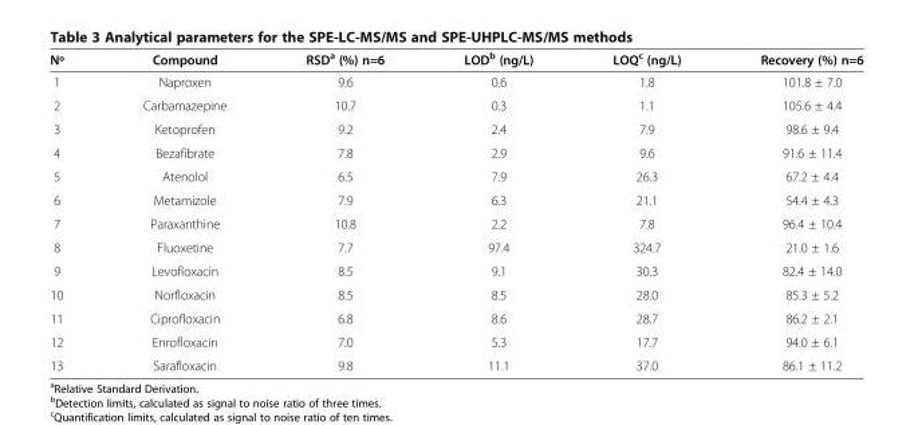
<table><thead><tr><td>Nº</td><td>Compound</td><td>RSD<sup>a</sup> (%) n=6</td><td>LOD<sup>b</sup> (ng/L)</td><td>LOQ<sup>c</sup> (ng/L)</td><td>Recovery (%) n=6</td></tr></thead><tbody><tr><td>1</td><td>Naproxen</td><td>9.6</td><td>0.6</td><td>1.8</td><td>101.8 ± 7.0</td></tr><tr><td>2</td><td>Carbamazepine</td><td>10.7</td><td>0.3</td><td>1.1</td><td>105.6 ± 4.4</td></tr><tr><td>3</td><td>Ketoprofen</td><td>9.2</td><td>2.4</td><td>7.9</td><td>98.6 ± 9.4</td></tr><tr><td>4</td><td>Bezafibrate</td><td>7.8</td><td>2.9</td><td>9.6</td><td>91.6 ± 11.4</td></tr><tr><td>5</td><td>Atenolol</td><td>6.5</td><td>7.9</td><td>26.3</td><td>67.2 ± 4.4</td></tr><tr><td>6</td><td>Metamizole</td><td>7.9</td><td>6.3</td><td>21.1</td><td>54.4 ± 4.3</td></tr><tr><td>7</td><td>Paraxanthine</td><td>10.8</td><td>2.2</td><td>7.8</td><td>96.4 ± 10.4</td></tr><tr><td>8</td><td>Fluoxetine</td><td>7.7</td><td>97.4</td><td>324.7</td><td>21.0 ± 1.6</td></tr><tr><td>9</td><td>Levofloxacin</td><td>8.5</td><td>9.1</td><td>30.3</td><td>82.4 ± 14.0</td></tr><tr><td>10</td><td>Norfloxacin</td><td>8.5</td><td>8.5</td><td>28.0</td><td>85.3 ± 5.2</td></tr><tr><td>11</td><td>Ciprofloxacin</td><td>6.8</td><td>8.6</td><td>28.7</td><td>86.2 ± 2.1</td></tr><tr><td>12</td><td>Enrofloxacin</td><td>7.0</td><td>5.3</td><td>17.7</td><td>94.0 ± 6.1</td></tr><tr><td>13</td><td>Sarafloxacin</td><td>9.8</td><td>11.1</td><td>37.0</td><td>86.1 ± 11.2</td></tr></tbody></table>